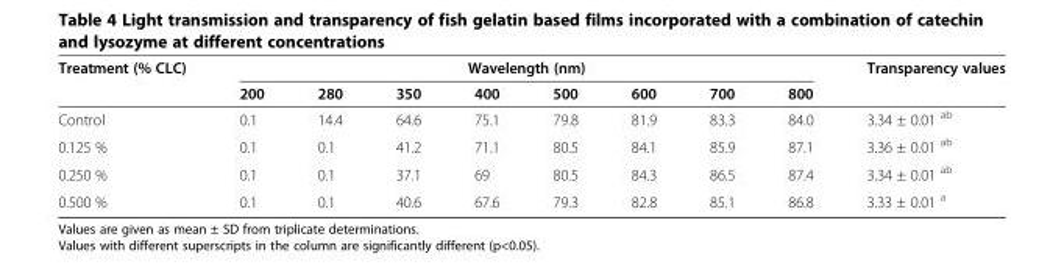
<table><thead><tr><td rowspan="2">Treatment (% CLC)</td><td colspan="8">Wavelength (nm)</td><td rowspan="2">Transparency values</td></tr><tr><td>200</td><td>280</td><td>350</td><td>400</td><td>500</td><td>600</td><td>700</td><td>800</td></tr></thead><tbody><tr><td>Control</td><td>0.1</td><td>14.4</td><td>64.6</td><td>75.1</td><td>79.8</td><td>81.9</td><td>83.3</td><td>84.0</td><td>3.34 ± 0.01 <sup>ab</sup></td></tr><tr><td>0.125 %</td><td>0.1</td><td>0.1</td><td>41.2</td><td>71.1</td><td>80.5</td><td>84.1</td><td>85.9</td><td>87.1</td><td>3.36 ± 0.01 <sup>ab</sup></td></tr><tr><td>0.250 %</td><td>0.1</td><td>0.1</td><td>37.1</td><td>69</td><td>80.5</td><td>84.3</td><td>86.5</td><td>87.4</td><td>3.34 ± 0.01 <sup>ab</sup></td></tr><tr><td>0.500 %</td><td>0.1</td><td>0.1</td><td>40.6</td><td>67.6</td><td>79.3</td><td>82.8</td><td>85.1</td><td>86.8</td><td>3.33 ± 0.01 <sup>a</sup></td></tr></tbody></table>